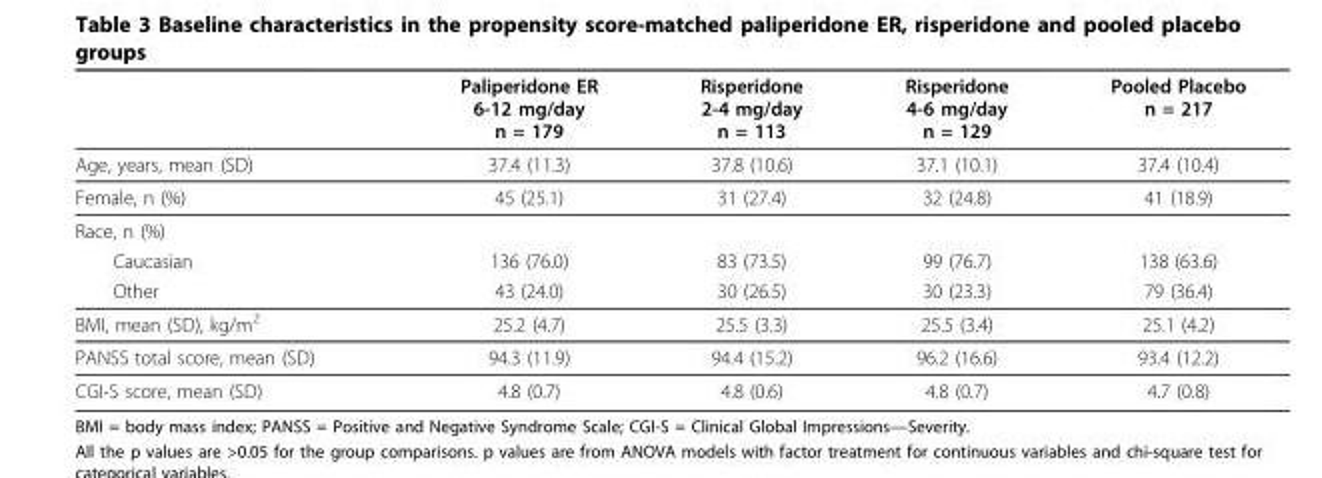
<table><thead><tr><td></td><td>Paliperidone ER 6-12 mg/day n = 179</td><td>Risperidone 2-4 mg/day n = 113</td><td>Risperidone 4-6 mg/day n = 129</td><td>Pooled Placebo n = 217</td></tr></thead><tbody><tr><td>Age, years, mean (SD)</td><td>37.4 (11.3)</td><td>37.8 (10.6)</td><td>37.1 (10.1)</td><td>37.4 (10.4)</td></tr><tr><td>Female, n (%)</td><td>45 (25.1)</td><td>31 (27.4)</td><td>32 (24.8)</td><td>41 (18.9)</td></tr><tr><td colspan="5">Race, n (%)</td></tr><tr><td>Caucasian</td><td>136 (76.0)</td><td>83 (73.5)</td><td>99 (76.7)</td><td>138 (63.6)</td></tr><tr><td>Other</td><td>43 (24.0)</td><td>30 (26.5)</td><td>30 (23.3)</td><td>79 (36.4)</td></tr><tr><td>BMI, mean (SD), kg/m<sup>2</sup></td><td>25.2 (4.7)</td><td>25.5 (3.3)</td><td>25.5 (3.4)</td><td>25.1 (4.2)</td></tr><tr><td>PANSS total score, mean (SD)</td><td>94.3 (11.9)</td><td>94.4 (15.2)</td><td>96.2 (16.6)</td><td>93.4 (12.2)</td></tr><tr><td>CGI-S score, mean (SD)</td><td>4.8 (0.7)</td><td>4.8 (0.6)</td><td>4.8 (0.7)</td><td>4.7 (0.8)</td></tr></tbody></table>